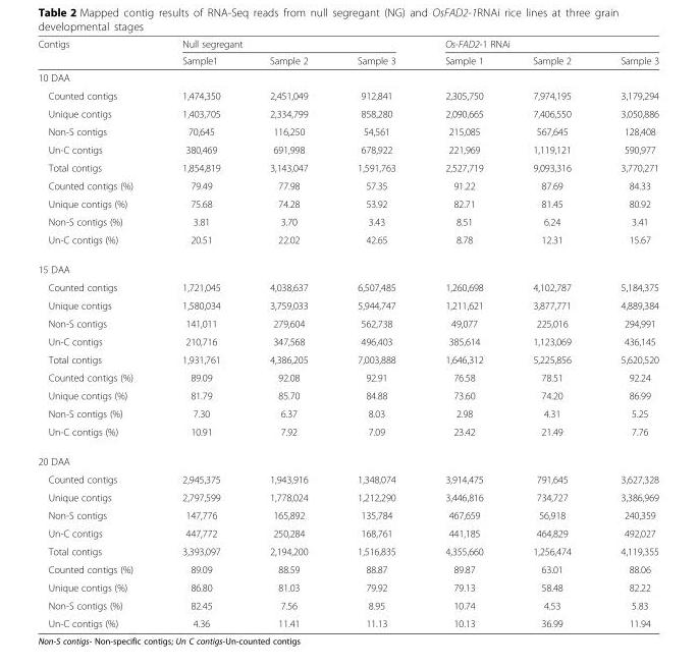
<table><thead><tr><td rowspan="2">Contigs</td><td colspan="3">Null segregant</td><td colspan="3">Os-FAD2-1 RNAi</td></tr><tr><td>Sample1</td><td>Sample 2</td><td>Sample 3</td><td>Sample 1</td><td>Sample 2</td><td>Sample 3</td></tr></thead><tbody><tr><td colspan="7">10 DAA</td></tr><tr><td>Counted contigs</td><td>1,474,350</td><td>2,451,049</td><td>912,841</td><td>2,305,750</td><td>7,974,195</td><td>3,179,294</td></tr><tr><td>Unique contigs</td><td>1,403,705</td><td>2,334,799</td><td>858,280</td><td>2,090,665</td><td>7,406,550</td><td>3,050,886</td></tr><tr><td>Non-S contigs</td><td>70,645</td><td>116,250</td><td>54,561</td><td>215,085</td><td>567,645</td><td>128,408</td></tr><tr><td>Un-C contigs</td><td>380,469</td><td>691,998</td><td>678,922</td><td>221,969</td><td>1,119,121</td><td>590,977</td></tr><tr><td>Total contigs</td><td>1,854,819</td><td>3,143,047</td><td>1,591,763</td><td>2,527,719</td><td>9,093,316</td><td>3,770,271</td></tr><tr><td>Counted contigs (%)</td><td>79.49</td><td>77.98</td><td>57.35</td><td>91.22</td><td>87.69</td><td>84.33</td></tr><tr><td>Unique contigs (%)</td><td>75.68</td><td>74.28</td><td>53.92</td><td>82.71</td><td>81.45</td><td>80.92</td></tr><tr><td>Non-S contigs (%)</td><td>3.81</td><td>3.70</td><td>3.43</td><td>8.51</td><td>6.24</td><td>3.41</td></tr><tr><td>Un-C contigs (%)</td><td>20.51</td><td>22.02</td><td>42.65</td><td>8.78</td><td>12.31</td><td>15.67</td></tr><tr><td colspan="7">15 DAA</td></tr><tr><td>Counted contigs</td><td>1,721,045</td><td>4,038,637</td><td>6,507,485</td><td>1,260,698</td><td>4,102,787</td><td>5,184,375</td></tr><tr><td>Unique contigs</td><td>1,580,034</td><td>3,759,033</td><td>5,944,747</td><td>1,211,621</td><td>3,877,771</td><td>4,889,384</td></tr><tr><td>Non-S contigs</td><td>141,011</td><td>279,604</td><td>562,738</td><td>49,077</td><td>225,016</td><td>294,991</td></tr><tr><td>Un-C contigs</td><td>210,716</td><td>347,568</td><td>496,403</td><td>385,614</td><td>1,123,069</td><td>436,145</td></tr><tr><td>Total contigs</td><td>1,931,761</td><td>4,386,205</td><td>7,003,888</td><td>1,646,312</td><td>5,225,856</td><td>5,620,520</td></tr><tr><td>Counted contigs (%)</td><td>89.09</td><td>92.08</td><td>92.91</td><td>76.58</td><td>78.51</td><td>92.24</td></tr><tr><td>Unique contigs (%)</td><td>81.79</td><td>85.70</td><td>84.88</td><td>73.60</td><td>74.20</td><td>86.99</td></tr><tr><td>Non-S contigs (%)</td><td>7.30</td><td>6.37</td><td>8.03</td><td>2.98</td><td>4.31</td><td>5.25</td></tr><tr><td>Un-C contigs (%)</td><td>10.91</td><td>7.92</td><td>7.09</td><td>23.42</td><td>21.49</td><td>7.76</td></tr><tr><td colspan="7">20 DAA</td></tr><tr><td>Counted contigs</td><td>2,945,375</td><td>1,943,916</td><td>1,348,074</td><td>3,914,475</td><td>791,645</td><td>3,627,328</td></tr><tr><td>Unique contigs</td><td>2,797,599</td><td>1,778,024</td><td>1,212,290</td><td>3,446,816</td><td>734,727</td><td>3,386,969</td></tr><tr><td>Non-S contigs</td><td>147,776</td><td>165,892</td><td>135,784</td><td>467,659</td><td>56,918</td><td>240,359</td></tr><tr><td>Un-C contigs</td><td>447,772</td><td>250,284</td><td>168,761</td><td>441,185</td><td>464,829</td><td>492,027</td></tr><tr><td>Total contigs</td><td>3,393,097</td><td>2,194,200</td><td>1,516,835</td><td>4,355,660</td><td>1,256,474</td><td>4,119,355</td></tr><tr><td>Counted contigs (%)</td><td>89.09</td><td>88.59</td><td>88.87</td><td>89.87</td><td>63.01</td><td>88.06</td></tr><tr><td>Unique contigs (%)</td><td>86.80</td><td>81.03</td><td>79.92</td><td>79.13</td><td>58.48</td><td>82.22</td></tr><tr><td>Non-S contigs (%)</td><td>82.45</td><td>7.56</td><td>8.95</td><td>10.74</td><td>4.53</td><td>5.83</td></tr><tr><td>Un-C contigs (%)</td><td>4.36</td><td>11.41</td><td>11.13</td><td>10.13</td><td>36.99</td><td>11.94</td></tr></tbody></table>